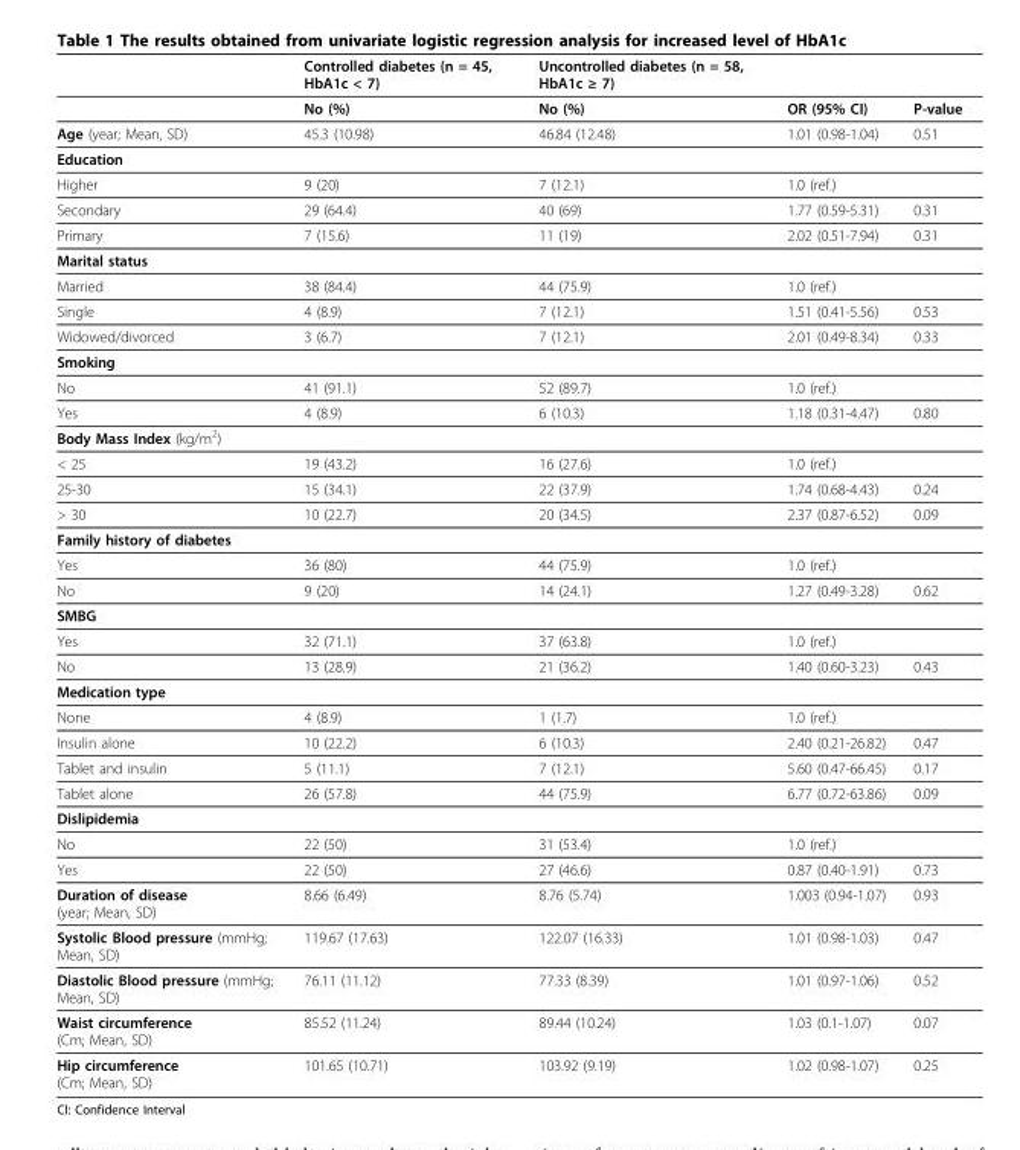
<table><thead><tr><td></td><td>Controlled diabetes (n = 45, HbA1c &lt; 7)</td><td>Uncontrolled diabetes (n = 58, HbA1c ≥ 7)</td><td></td><td></td></tr></thead><tbody><tr><td></td><td>No (%)</td><td>No (%)</td><td>OR (95% CI)</td><td>P-value</td></tr><tr><td>Age (year; Mean, SD)</td><td>45.3 (10.98)</td><td>46.84 (12.48)</td><td>1.01 (0.98-1.04)</td><td>0.51</td></tr><tr><td colspan="5">Education</td></tr><tr><td>Higher</td><td>9 (20)</td><td>7 (12.1)</td><td>1.0 (ref.)</td><td></td></tr><tr><td>Secondary</td><td>29 (64.4)</td><td>40 (69)</td><td>1.77 (0.59-5.31)</td><td>0.31</td></tr><tr><td>Primary</td><td>7 (15.6)</td><td>11 (19)</td><td>2.02 (0.51-7.94)</td><td>0.31</td></tr><tr><td colspan="5">Marital status</td></tr><tr><td>Married</td><td>38 (84.4)</td><td>44 (75.9)</td><td>1.0 (ref.)</td><td></td></tr><tr><td>Single</td><td>4 (8.9)</td><td>7 (12.1)</td><td>1.51 (0.41-5.56)</td><td>0.53</td></tr><tr><td>Widowed/divorced</td><td>3 (6.7)</td><td>7 (12.1)</td><td>2.01 (0.49-8.34)</td><td>0.33</td></tr><tr><td colspan="5">Smoking</td></tr><tr><td>No</td><td>41 (91.1)</td><td>52 (89.7)</td><td>1.0 (ref.)</td><td></td></tr><tr><td>Yes</td><td>4 (8.9)</td><td>6 (10.3)</td><td>1.18 (0.31-4.47)</td><td>0.80</td></tr><tr><td colspan="5">Body Mass Index (kg/m<sup>2</sup>)</td></tr><tr><td>&lt; 25</td><td>19 (43.2)</td><td>16 (27.6)</td><td>1.0 (ref.)</td><td></td></tr><tr><td>25-30</td><td>15 (34.1)</td><td>22 (37.9)</td><td>1.74 (0.68-4.43)</td><td>0.24</td></tr><tr><td>&gt; 30</td><td>10 (22.7)</td><td>20 (34.5)</td><td>2.37 (0.87-6.52)</td><td>0.09</td></tr><tr><td colspan="5">Family history of diabetes</td></tr><tr><td>Yes</td><td>36 (80)</td><td>44 (75.9)</td><td>1.0 (ref.)</td><td></td></tr><tr><td>No</td><td>9 (20)</td><td>14 (24.1)</td><td>1.27 (0.49-3.28)</td><td>0.62</td></tr><tr><td colspan="5">SMBG</td></tr><tr><td>Yes</td><td>32 (71.1)</td><td>37 (63.8)</td><td>1.0 (ref.)</td><td></td></tr><tr><td>No</td><td>13 (28.9)</td><td>21 (36.2)</td><td>1.40 (0.60-3.23)</td><td>0.43</td></tr><tr><td colspan="5">Medication type</td></tr><tr><td>None</td><td>4 (8.9)</td><td>1 (1.7)</td><td>1.0 (ref.)</td><td></td></tr><tr><td>Insulin alone</td><td>10 (22.2)</td><td>6 (10.3)</td><td>2.40 (0.21-26.82)</td><td>0.47</td></tr><tr><td>Tablet and insulin</td><td>5 (11.1)</td><td>7 (12.1)</td><td>5.60 (0.47-66.45)</td><td>0.17</td></tr><tr><td>Tablet alone</td><td>26 (57.8)</td><td>44 (75.9)</td><td>6.77 (0.72-63.86)</td><td>0.09</td></tr><tr><td colspan="5">Dislipidemia</td></tr><tr><td>No</td><td>22 (50)</td><td>31 (53.4)</td><td>1.0 (ref.)</td><td></td></tr><tr><td>Yes</td><td>22 (50)</td><td>27 (46.6)</td><td>0.87 (0.40-1.91)</td><td>0.73</td></tr><tr><td>Duration of disease (year; Mean, SD)</td><td>8.66 (6.49)</td><td>8.76 (5.74)</td><td>1.003 (0.94-1.07)</td><td>0.93</td></tr><tr><td>Systolic Blood pressure (mmHg; Mean, SD)</td><td>119.67 (17.63)</td><td>122.07 (16.33)</td><td>1.01 (0.98-1.03)</td><td>0.47</td></tr><tr><td>Diastolic Blood pressure (mmHg; Mean, SD)</td><td>76.11 (11.12)</td><td>77.33 (8.39)</td><td>1.01 (0.97-1.06)</td><td>0.52</td></tr><tr><td>Waist circumference (Cm; Mean, SD)</td><td>85.52 (11.24)</td><td>89.44 (10.24)</td><td>1.03 (0.1-1.07)</td><td>0.07</td></tr><tr><td>Hip circumference (Cm; Mean, SD)</td><td>101.65 (10.71)</td><td>103.92 (9.19)</td><td>1.02 (0.98-1.07)</td><td>0.25</td></tr></tbody></table>